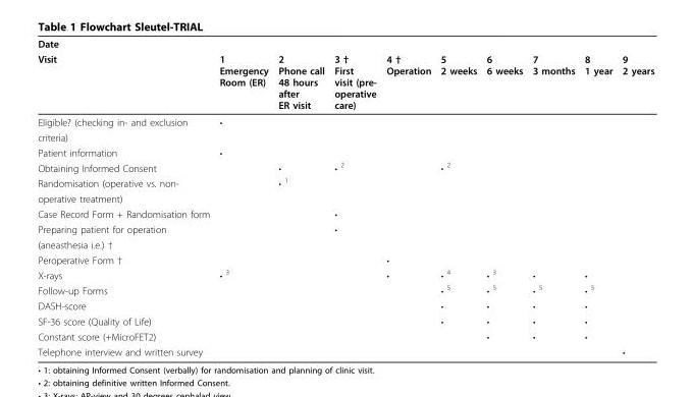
<table><thead><tr><td colspan="10">Date</td></tr><tr><td>Visit</td><td>1 Emergency Room (ER)</td><td>2 Phone call 48 hours after ER visit</td><td>3 † First visit (pre- operative care)</td><td>4 † Operation</td><td>5 2 weeks</td><td>6 6 weeks</td><td>7 3 months</td><td>8 1 year</td><td>9 2 years</td></tr></thead><tbody><tr><td>Eligible? (checking in- and exclusion</td><td>•</td><td></td><td></td><td></td><td></td><td></td><td></td><td></td><td></td></tr><tr><td colspan="10">criteria)</td></tr><tr><td>Patient information</td><td>•</td><td></td><td></td><td></td><td></td><td></td><td></td><td></td><td></td></tr><tr><td>Obtaining Informed Consent</td><td></td><td>•</td><td>• <sup>2</sup></td><td></td><td>• <sup>2</sup></td><td></td><td></td><td></td><td></td></tr><tr><td>Randomisation (operative vs. non-</td><td></td><td>• <sup>1</sup></td><td></td><td></td><td></td><td></td><td></td><td></td><td></td></tr><tr><td colspan="10">operative treatment)</td></tr><tr><td>Case Record Form + Randomisation form</td><td></td><td></td><td>•</td><td></td><td></td><td></td><td></td><td></td><td></td></tr><tr><td>Preparing patient for operation</td><td></td><td></td><td>•</td><td></td><td></td><td></td><td></td><td></td><td></td></tr><tr><td colspan="10">(aneasthesia i.e.) †</td></tr><tr><td>Peroperative Form †</td><td></td><td></td><td></td><td>•</td><td></td><td></td><td></td><td></td><td></td></tr><tr><td>X-rays</td><td>• <sup>3</sup></td><td></td><td></td><td>•</td><td>• <sup>4</sup></td><td>• <sup>3</sup></td><td>•</td><td>•</td><td></td></tr><tr><td>Follow-up Forms</td><td></td><td></td><td></td><td></td><td>• <sup>5</sup></td><td>• <sup>5</sup></td><td>• <sup>5</sup></td><td>• <sup>5</sup></td><td></td></tr><tr><td>DASH-score</td><td></td><td></td><td></td><td></td><td>•</td><td>•</td><td>•</td><td>•</td><td></td></tr><tr><td>SF-36 score (Quality of Life)</td><td></td><td></td><td></td><td></td><td>•</td><td>•</td><td>•</td><td>•</td><td></td></tr><tr><td>Constant score (+MicroFET2)</td><td></td><td></td><td></td><td></td><td></td><td>•</td><td>•</td><td>•</td><td></td></tr><tr><td>Telephone interview and written survey</td><td></td><td></td><td></td><td></td><td></td><td></td><td></td><td></td><td>•</td></tr></tbody></table>